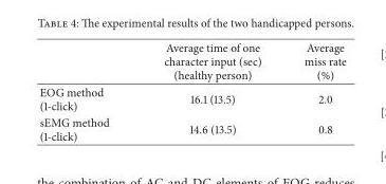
<table><thead><tr><td></td><td>Average time of one character input (sec) (healthy person)</td><td>Average miss rate (%)</td></tr></thead><tbody><tr><td>EOG method (1-click)</td><td>16.1 (13.5)</td><td>2.0</td></tr><tr><td>sEMG method (1-click)</td><td>14.6 (13.5)</td><td>0.8</td></tr></tbody></table>